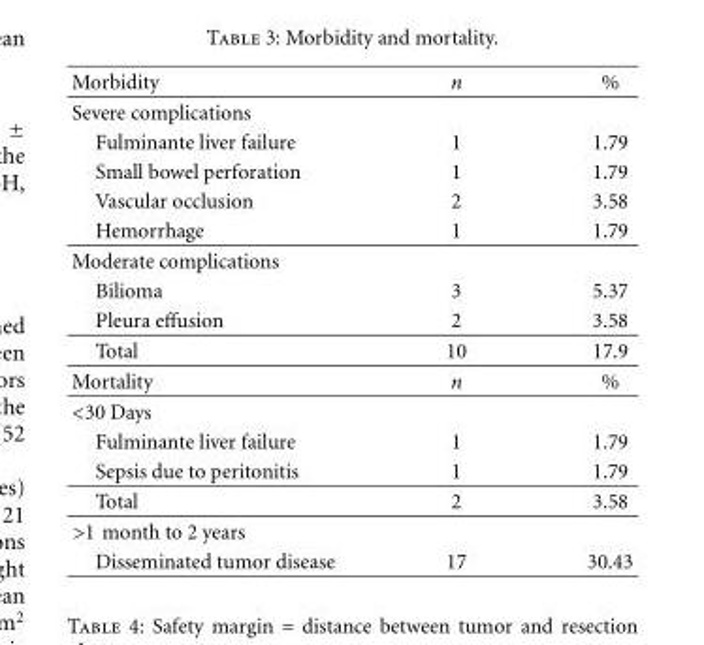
<table><thead><tr><td>Morbidity</td><td>n</td><td>%</td></tr></thead><tbody><tr><td colspan="3">Severe complications</td></tr><tr><td>Fulminante liver failure</td><td>1</td><td>1.79</td></tr><tr><td>Small bowel perforation</td><td>1</td><td>1.79</td></tr><tr><td>Vascular occlusion</td><td>2</td><td>3.58</td></tr><tr><td>Hemorrhage</td><td>1</td><td>1.79</td></tr><tr><td colspan="3">Moderate complications</td></tr><tr><td>Bilioma</td><td>3</td><td>5.37</td></tr><tr><td>Pleura effusion</td><td>2</td><td>3.58</td></tr><tr><td>Total</td><td>10</td><td>17.9</td></tr><tr><td>Mortality</td><td>n</td><td>%</td></tr><tr><td colspan="3">&lt;30 Days</td></tr><tr><td>Fulminante liver failure</td><td>1</td><td>1.79</td></tr><tr><td>Sepsis due to peritonitis</td><td>1</td><td>1.79</td></tr><tr><td>Total</td><td>2</td><td>3.58</td></tr><tr><td colspan="3">&gt;1 month to 2 years</td></tr><tr><td>Disseminated tumor disease</td><td>17</td><td>30.43</td></tr></tbody></table>